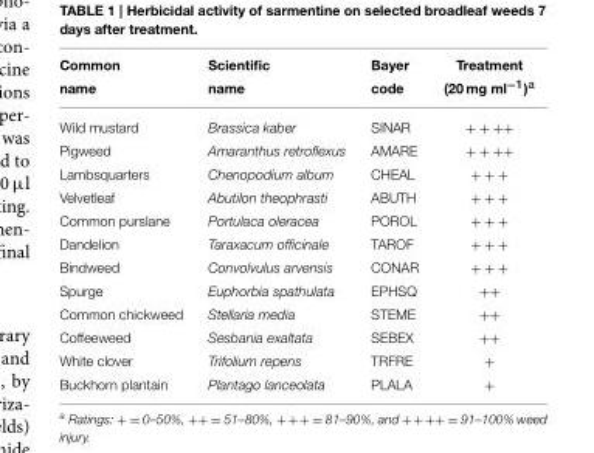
<table><thead><tr><td>Common name</td><td>Scientific name</td><td>Bayer code</td><td>Treatment (20 mg ml<sup>−1</sup>)<sup>a</sup></td></tr></thead><tbody><tr><td>Wild mustard</td><td>Brassica kaber</td><td>SINAR</td><td>+ + ++</td></tr><tr><td>Pigweed</td><td>Amaranthus retroflexus</td><td>AMARE</td><td>+ + ++</td></tr><tr><td>Lambsquarters</td><td>Chenopodium album</td><td>CHEAL</td><td>+ + +</td></tr><tr><td>Velvetleaf</td><td>Abutilon theophrasti</td><td>ABUTH</td><td>+ + +</td></tr><tr><td>Common purslane</td><td>Portulaca oleracea</td><td>POROL</td><td>+ + +</td></tr><tr><td>Dandelion</td><td>Taraxacum officinale</td><td>TAROF</td><td>+ + +</td></tr><tr><td>Bindweed</td><td>Convolvulus arvensis</td><td>CONAR</td><td>+ + +</td></tr><tr><td>Spurge</td><td>Euphorbia spathulata</td><td>EPHSQ</td><td>++</td></tr><tr><td>Common chickweed</td><td>Stellaria media</td><td>STEME</td><td>++</td></tr><tr><td>Coffeeweed</td><td>Sesbania exaltata</td><td>SEBEX</td><td>++</td></tr><tr><td>White clover</td><td>Trifolium repens</td><td>TRFRE</td><td>+</td></tr><tr><td>Buckhorn plantain</td><td>Plantago lanceolata</td><td>PLALA</td><td>+</td></tr></tbody></table>